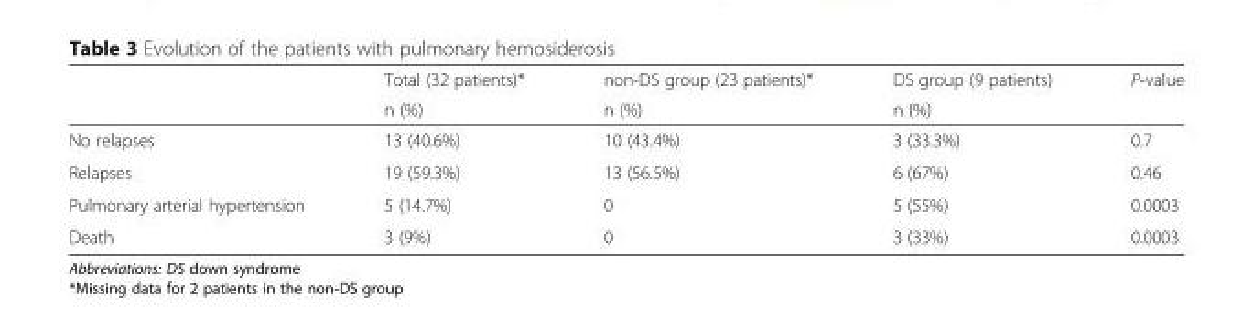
<table><thead><tr><td rowspan="2"></td><td rowspan="2">Total (32 patients)* n (%)</td><td rowspan="2">non-DS group (23 patients)* n (%)</td><td rowspan="2">DS group (9 patients) n (%)</td><td rowspan="2">P-value</td></tr><tr></tr></thead><tbody><tr><td>No relapses</td><td>13 (40.6%)</td><td>10 (43.4%)</td><td>3 (33.3%)</td><td>0.7</td></tr><tr><td>Relapses</td><td>19 (59.3%)</td><td>13 (56.5%)</td><td>6 (67%)</td><td>0.46</td></tr><tr><td>Pulmonary arterial hypertension</td><td>5 (14.7%)</td><td>0</td><td>5 (55%)</td><td>0.0003</td></tr><tr><td>Death</td><td>3 (9%)</td><td>0</td><td>3 (33%)</td><td>0.0003</td></tr></tbody></table>